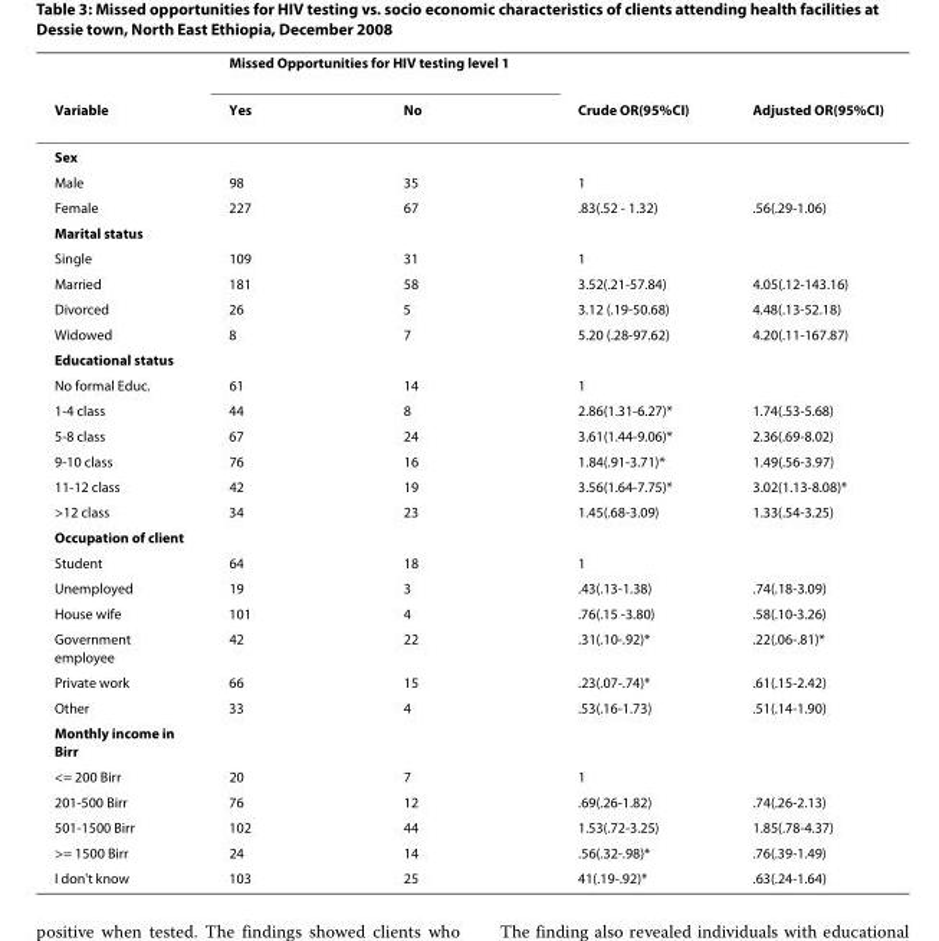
<table><thead><tr><td rowspan="2">Variable</td><td colspan="2">Missed Opportunities for HIV testing level 1</td><td rowspan="2">Crude OR(95%CI)</td><td rowspan="2">Adjusted OR(95%CI)</td></tr><tr><td>Yes</td><td>No</td></tr></thead><tbody><tr><td colspan="5">Sex</td></tr><tr><td>Male</td><td>98</td><td>35</td><td>1</td><td></td></tr><tr><td>Female</td><td>227</td><td>67</td><td>.83(.52 - 1.32)</td><td>.56(.29-1.06)</td></tr><tr><td colspan="5">Marital status</td></tr><tr><td>Single</td><td>109</td><td>31</td><td>1</td><td></td></tr><tr><td>Married</td><td>181</td><td>58</td><td>3.52(.21-57.84)</td><td>4.05(.12-143.16)</td></tr><tr><td>Divorced</td><td>26</td><td>5</td><td>3.12 (.19-50.68)</td><td>4.48(.13-52.18)</td></tr><tr><td>Widowed</td><td>8</td><td>7</td><td>5.20 (.28-97.62)</td><td>4.20(.11-167.87)</td></tr><tr><td colspan="5">Educational status</td></tr><tr><td>No formal Educ.</td><td>61</td><td>14</td><td>1</td><td></td></tr><tr><td>1-4 class</td><td>44</td><td>8</td><td>2.86(1.31-6.27)*</td><td>1.74(.53-5.68)</td></tr><tr><td>5-8 class</td><td>67</td><td>24</td><td>3.61(1.44-9.06)*</td><td>2.36(.69-8.02)</td></tr><tr><td>9-10 class</td><td>76</td><td>16</td><td>1.84(.91-3.71)*</td><td>1.49(.56-3.97)</td></tr><tr><td>11-12 class</td><td>42</td><td>19</td><td>3.56(1.64-7.75)*</td><td>3.02(1.13-8.08)*</td></tr><tr><td>&gt;12 class</td><td>34</td><td>23</td><td>1.45(.68-3.09)</td><td>1.33(.54-3.25)</td></tr><tr><td colspan="5">Occupation of client</td></tr><tr><td>Student</td><td>64</td><td>18</td><td>1</td><td></td></tr><tr><td>Unemployed</td><td>19</td><td>3</td><td>.43(.13-1.38)</td><td>.74(.18-3.09)</td></tr><tr><td>House wife</td><td>101</td><td>4</td><td>.76(.15 -3.80)</td><td>.58(.10-3.26)</td></tr><tr><td>Government employee</td><td>42</td><td>22</td><td>.31(.10-.92)*</td><td>.22(.06-.81)*</td></tr><tr><td>Private work</td><td>66</td><td>15</td><td>.23(.07-.74)*</td><td>.61(.15-2.42)</td></tr><tr><td>Other</td><td>33</td><td>4</td><td>.53(.16-1.73)</td><td>.51(.14-1.90)</td></tr><tr><td colspan="5">Monthly income in Birr</td></tr><tr><td>&lt;= 200 Birr</td><td>20</td><td>7</td><td>1</td><td></td></tr><tr><td>201-500 Birr</td><td>76</td><td>12</td><td>.69(.26-1.82)</td><td>.74(.26-2.13)</td></tr><tr><td>501-1500 Birr</td><td>102</td><td>44</td><td>1.53(.72-3.25)</td><td>1.85(.78-4.37)</td></tr><tr><td>&gt;= 1500 Birr</td><td>24</td><td>14</td><td>.56(.32-.98)*</td><td>.76(.39-1.49)</td></tr><tr><td>I don&#x27;t know</td><td>103</td><td>25</td><td>41(.19-.92)*</td><td>.63(.24-1.64)</td></tr></tbody></table>